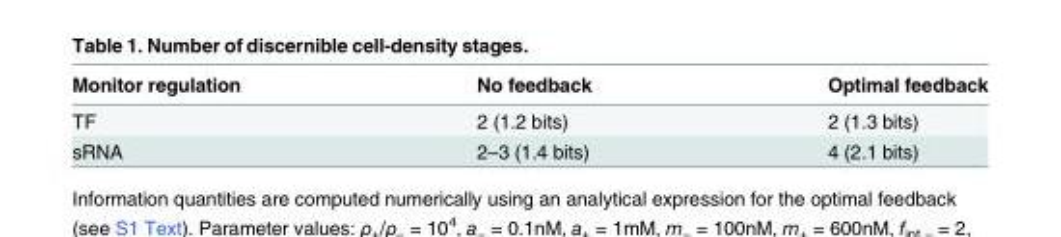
<table><thead><tr><td>Monitor regulation</td><td>No feedback</td><td>Optimal feedback</td></tr></thead><tbody><tr><td>TF</td><td>2 (1.2 bits)</td><td>2 (1.3 bits)</td></tr><tr><td>sRNA</td><td>2–3 (1.4 bits)</td><td>4 (2.1 bits)</td></tr></tbody></table>